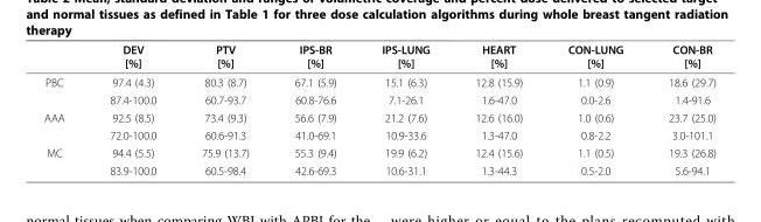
<table><thead><tr><td></td><td>DEV [%]</td><td>PTV [%]</td><td>IPS-BR [%]</td><td>IPS-LUNG [%]</td><td>HEART [%]</td><td>CON-LUNG [%]</td><td>CON-BR [%]</td></tr></thead><tbody><tr><td rowspan="2">PBC</td><td>97.4 (4.3)</td><td>80.3 (8.7)</td><td>67.1 (5.9)</td><td>15.1 (6.3)</td><td>12.8 (15.9)</td><td>1.1 (0.9)</td><td>18.6 (29.7)</td></tr><tr><td>87.4-100.0</td><td>60.7-93.7</td><td>60.8-76.6</td><td>7.1-26.1</td><td>1.6-47.0</td><td>0.0-2.6</td><td>1.4-91.6</td></tr><tr><td rowspan="2">AAA</td><td>92.5 (8.5)</td><td>73.4 (9.3)</td><td>56.6 (7.9)</td><td>21.2 (7.6)</td><td>12.6 (16.0)</td><td>1.0 (0.6)</td><td>23.7 (25.0)</td></tr><tr><td>72.0-100.0</td><td>60.6-91.3</td><td>41.0-69.1</td><td>10.9-33.6</td><td>1.3-47.0</td><td>0.8-2.2</td><td>3.0-101.1</td></tr><tr><td rowspan="2">MC</td><td>94.4 (5.5)</td><td>75.9 (13.7)</td><td>55.3 (9.4)</td><td>19.9 (6.2)</td><td>12.4 (15.6)</td><td>1.1 (0.5)</td><td>19.3 (26.8)</td></tr><tr><td>83.9-100.0</td><td>60.5-98.4</td><td>42.6-69.3</td><td>10.6-31.1</td><td>1.3-44.3</td><td>0.5-2.0</td><td>5.6-94.1</td></tr></tbody></table>